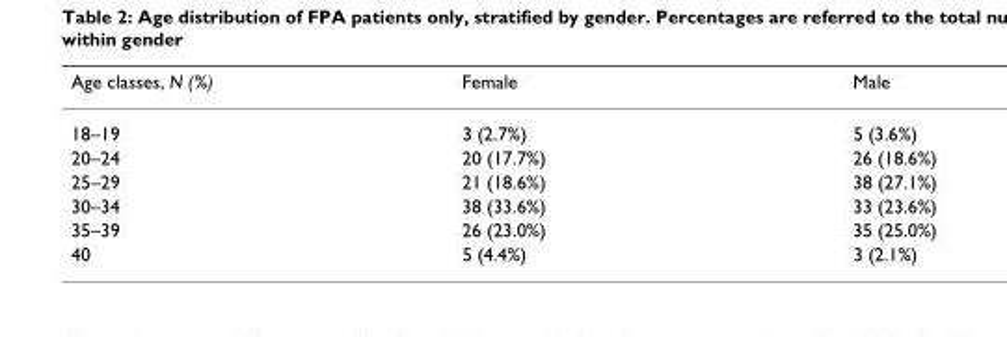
<table><thead><tr><td>Age classes, N (%)</td><td>Female</td><td>Male</td></tr></thead><tbody><tr><td>18–19</td><td>3 (2.7%)</td><td>5 (3.6%)</td></tr><tr><td>20–24</td><td>20 (17.7%)</td><td>26 (18.6%)</td></tr><tr><td>25–29</td><td>21 (18.6%)</td><td>38 (27.1%)</td></tr><tr><td>30–34</td><td>38 (33.6%)</td><td>33 (23.6%)</td></tr><tr><td>35–39</td><td>26 (23.0%)</td><td>35 (25.0%)</td></tr><tr><td>40</td><td>5 (4.4%)</td><td>3 (2.1%)</td></tr></tbody></table>